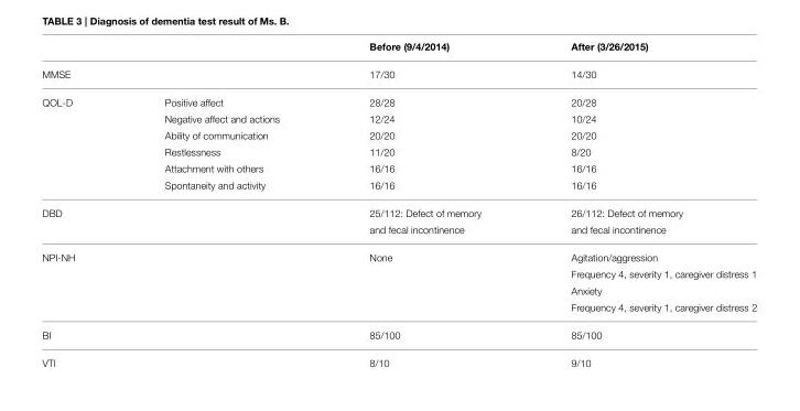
<table><thead><tr><td></td><td></td><td>Before (9/4/2014)</td><td>After (3/26/2015)</td></tr></thead><tbody><tr><td>MMSE</td><td></td><td>17/30</td><td>14/30</td></tr><tr><td rowspan="6">QOL-D</td><td>Positive affect</td><td>28/28</td><td>20/28</td></tr><tr><td>Negative affect and actions</td><td>12/24</td><td>10/24</td></tr><tr><td>Ability of communication</td><td>20/20</td><td>20/20</td></tr><tr><td>Restlessness</td><td>11/20</td><td>8/20</td></tr><tr><td>Attachment with others</td><td>16/16</td><td>16/16</td></tr><tr><td>Spontaneity and activity</td><td>16/16</td><td>16/16</td></tr><tr><td rowspan="2">DBD</td><td></td><td>25/112: Defect of memory</td><td>26/112: Defect of memory</td></tr><tr><td></td><td>and fecal incontinence</td><td>and fecal incontinence</td></tr><tr><td rowspan="4">NPI-NH</td><td></td><td>None</td><td>Agitation/aggression</td></tr><tr><td></td><td></td><td>Frequency 4, severity 1, caregiver distress 1</td></tr><tr><td></td><td></td><td>Anxiety</td></tr><tr><td></td><td></td><td>Frequency 4, severity 1, caregiver distress 2</td></tr><tr><td>BI</td><td></td><td>85/100</td><td>85/100</td></tr><tr><td>VTI</td><td></td><td>8/10</td><td>9/10</td></tr></tbody></table>